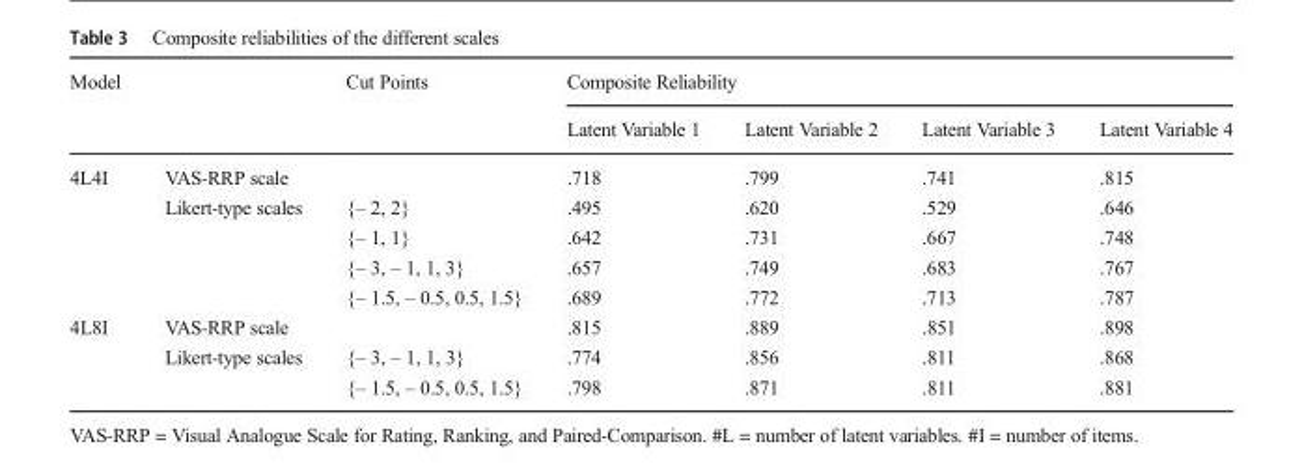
<table><thead><tr><td rowspan="2">Model</td><td rowspan="2"></td><td rowspan="2">Cut Points</td><td colspan="4">Composite Reliability</td></tr><tr><td>Latent Variable 1</td><td>Latent Variable 2</td><td>Latent Variable 3</td><td>Latent Variable 4</td></tr></thead><tbody><tr><td rowspan="5">4L4I</td><td>VAS-RRP scale</td><td></td><td>.718</td><td>.799</td><td>.741</td><td>.815</td></tr><tr><td rowspan="4">Likert-type scales</td><td>{– 2, 2}</td><td>.495</td><td>.620</td><td>.529</td><td>.646</td></tr><tr><td>{– 1, 1}</td><td>.642</td><td>.731</td><td>.667</td><td>.748</td></tr><tr><td>{– 3, – 1, 1, 3}</td><td>.657</td><td>.749</td><td>.683</td><td>.767</td></tr><tr><td>{– 1.5, – 0.5, 0.5, 1.5}</td><td>.689</td><td>.772</td><td>.713</td><td>.787</td></tr><tr><td rowspan="3">4L8I</td><td>VAS-RRP scale</td><td></td><td>.815</td><td>.889</td><td>.851</td><td>.898</td></tr><tr><td>Likert-type scales</td><td>{– 3, – 1, 1, 3}</td><td>.774</td><td>.856</td><td>.811</td><td>.868</td></tr><tr><td></td><td>{– 1.5, – 0.5, 0.5, 1.5}</td><td>.798</td><td>.871</td><td>.811</td><td>.881</td></tr></tbody></table>